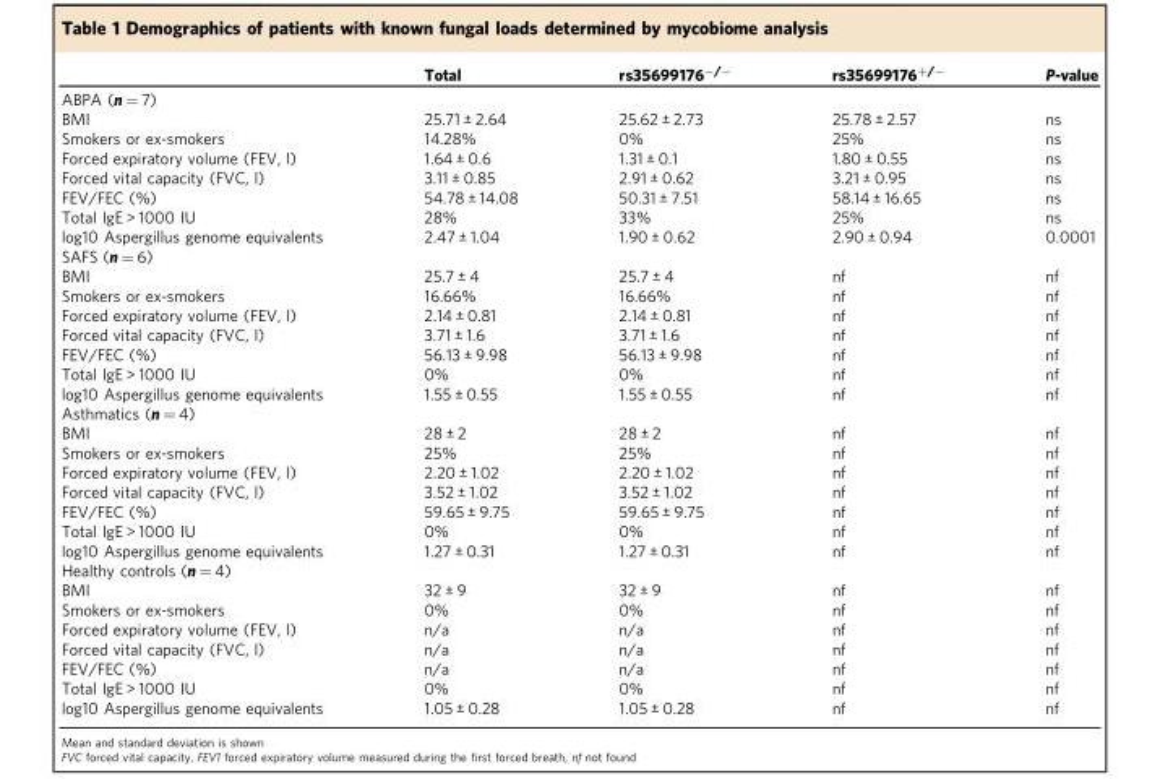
<table><thead><tr><td></td><td>Total</td><td>rs35699176<sup>−/−</sup></td><td>rs35699176<sup>+/−</sup></td><td>P-value</td></tr></thead><tbody><tr><td colspan="5">ABPA (n = 7)</td></tr><tr><td>BMI</td><td>25.71 ± 2.64</td><td>25.62 ± 2.73</td><td>25.78 ± 2.57</td><td>ns</td></tr><tr><td>Smokers or ex-smokers</td><td>14.28%</td><td>0%</td><td>25%</td><td>ns</td></tr><tr><td>Forced expiratory volume (FEV, l)</td><td>1.64 ± 0.6</td><td>1.31 ± 0.1</td><td>1.80 ± 0.55</td><td>ns</td></tr><tr><td>Forced vital capacity (FVC, l)</td><td>3.11 ± 0.85</td><td>2.91 ± 0.62</td><td>3.21 ± 0.95</td><td>ns</td></tr><tr><td>FEV/FEC (%)</td><td>54.78 ± 14.08</td><td>50.31 ± 7.51</td><td>58.14 ± 16.65</td><td>ns</td></tr><tr><td>Total IgE &gt; 1000 IU</td><td>28%</td><td>33%</td><td>25%</td><td>ns</td></tr><tr><td>log10 Aspergillus genome equivalents</td><td>2.47 ± 1.04</td><td>1.90 ± 0.62</td><td>2.90 ± 0.94</td><td>0.0001</td></tr><tr><td colspan="5">SAFS (n = 6)</td></tr><tr><td>BMI</td><td>25.7 ± 4</td><td>25.7 ± 4</td><td>nf</td><td>nf</td></tr><tr><td>Smokers or ex-smokers</td><td>16.66%</td><td>16.66%</td><td>nf</td><td>nf</td></tr><tr><td>Forced expiratory volume (FEV, l)</td><td>2.14 ± 0.81</td><td>2.14 ± 0.81</td><td>nf</td><td>nf</td></tr><tr><td>Forced vital capacity (FVC, l)</td><td>3.71 ± 1.6</td><td>3.71 ± 1.6</td><td>nf</td><td>nf</td></tr><tr><td>FEV/FEC (%)</td><td>56.13 ± 9.98</td><td>56.13 ± 9.98</td><td>nf</td><td>nf</td></tr><tr><td>Total IgE &gt; 1000 IU</td><td>0%</td><td>0%</td><td>nf</td><td>nf</td></tr><tr><td>log10 Aspergillus genome equivalents</td><td>1.55 ± 0.55</td><td>1.55 ± 0.55</td><td>nf</td><td>nf</td></tr><tr><td colspan="5">Asthmatics (n = 4)</td></tr><tr><td>BMI</td><td>28 ± 2</td><td>28 ± 2</td><td>nf</td><td>nf</td></tr><tr><td>Smokers or ex-smokers</td><td>25%</td><td>25%</td><td>nf</td><td>nf</td></tr><tr><td>Forced expiratory volume (FEV, l)</td><td>2.20 ± 1.02</td><td>2.20 ± 1.02</td><td>nf</td><td>nf</td></tr><tr><td>Forced vital capacity (FVC, l)</td><td>3.52 ± 1.02</td><td>3.52 ± 1.02</td><td>nf</td><td>nf</td></tr><tr><td>FEV/FEC (%)</td><td>59.65 ± 9.75</td><td>59.65 ± 9.75</td><td>nf</td><td>nf</td></tr><tr><td>Total IgE &gt; 1000 IU</td><td>0%</td><td>0%</td><td>nf</td><td>nf</td></tr><tr><td>log10 Aspergillus genome equivalents</td><td>1.27 ± 0.31</td><td>1.27 ± 0.31</td><td>nf</td><td>nf</td></tr><tr><td colspan="5">Healthy controls (n = 4)</td></tr><tr><td>BMI</td><td>32 ± 9</td><td>32 ± 9</td><td>nf</td><td>nf</td></tr><tr><td>Smokers or ex-smokers</td><td>0%</td><td>0%</td><td>nf</td><td>nf</td></tr><tr><td>Forced expiratory volume (FEV, l)</td><td>n/a</td><td>n/a</td><td>nf</td><td>nf</td></tr><tr><td>Forced vital capacity (FVC, l)</td><td>n/a</td><td>n/a</td><td>nf</td><td>nf</td></tr><tr><td>FEV/FEC (%)</td><td>n/a</td><td>n/a</td><td>nf</td><td>nf</td></tr><tr><td>Total IgE &gt; 1000 IU</td><td>0%</td><td>0%</td><td>nf</td><td>nf</td></tr><tr><td>log10 Aspergillus genome equivalents</td><td>1.05 ± 0.28</td><td>1.05 ± 0.28</td><td>nf</td><td>nf</td></tr></tbody></table>